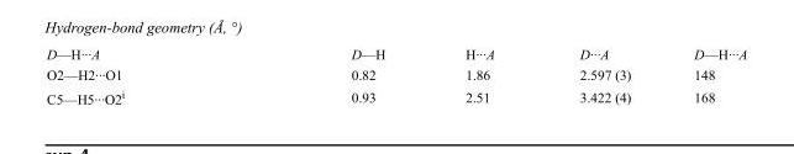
<table><tbody><tr><td>D—H···A</td><td>D—H</td><td>H···A</td><td>D···A</td><td>D—H···A</td></tr><tr><td>O2—H2···O1</td><td>0.82</td><td>1.86</td><td>2.597 (3)</td><td>148</td></tr><tr><td>C5—H5···O2<sup>i</sup></td><td>0.93</td><td>2.51</td><td>3.422 (4)</td><td>168</td></tr></tbody></table>